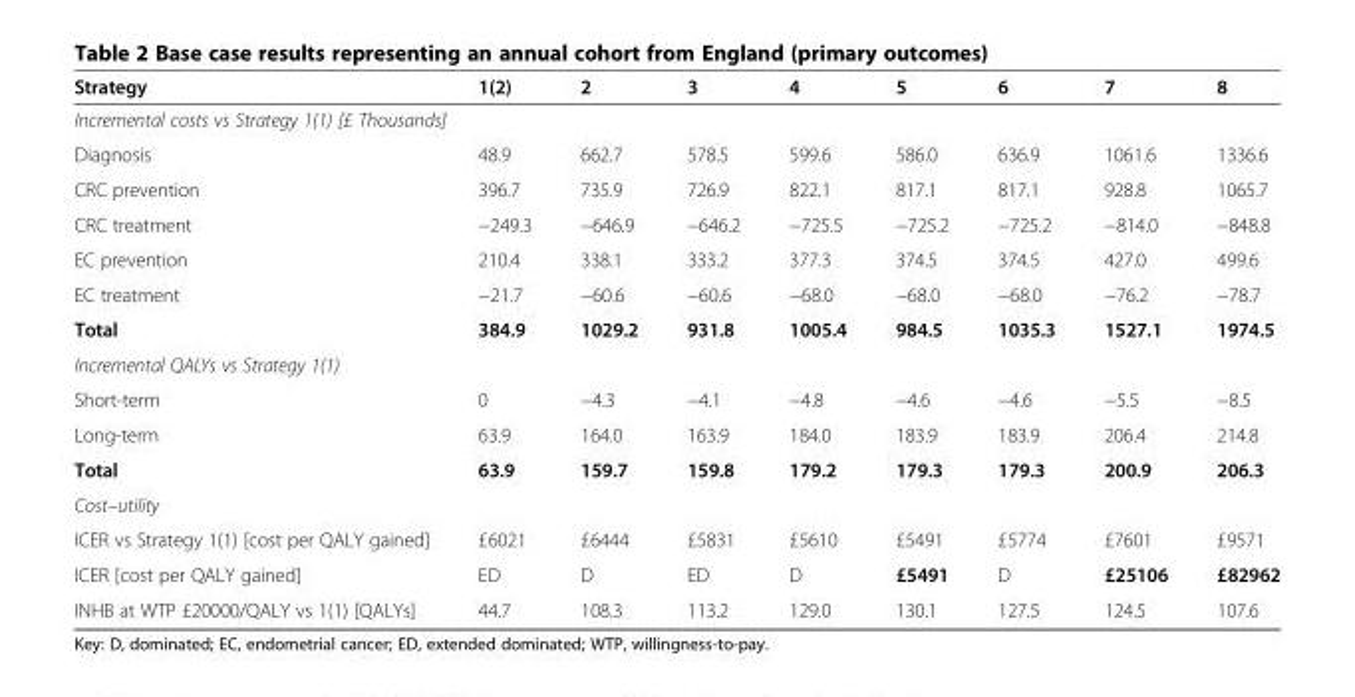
<table><thead><tr><td>Strategy</td><td>1(2)</td><td>2</td><td>3</td><td>4</td><td>5</td><td>6</td><td>7</td><td>8</td></tr></thead><tbody><tr><td colspan="9">Incremental costs vs Strategy 1(1) [£ Thousands]</td></tr><tr><td>Diagnosis</td><td>48.9</td><td>662.7</td><td>578.5</td><td>599.6</td><td>586.0</td><td>636.9</td><td>1061.6</td><td>1336.6</td></tr><tr><td>CRC prevention</td><td>396.7</td><td>735.9</td><td>726.9</td><td>822.1</td><td>817.1</td><td>817.1</td><td>928.8</td><td>1065.7</td></tr><tr><td>CRC treatment</td><td>−249.3</td><td>−646.9</td><td>−646.2</td><td>−725.5</td><td>−725.2</td><td>−725.2</td><td>−814.0</td><td>−848.8</td></tr><tr><td>EC prevention</td><td>210.4</td><td>338.1</td><td>333.2</td><td>377.3</td><td>374.5</td><td>374.5</td><td>427.0</td><td>499.6</td></tr><tr><td>EC treatment</td><td>−21.7</td><td>−60.6</td><td>−60.6</td><td>−68.0</td><td>−68.0</td><td>−68.0</td><td>−76.2</td><td>−78.7</td></tr><tr><td>Total</td><td>384.9</td><td>1029.2</td><td>931.8</td><td>1005.4</td><td>984.5</td><td>1035.3</td><td>1527.1</td><td>1974.5</td></tr><tr><td colspan="9">Incremental QALYs vs Strategy 1(1)</td></tr><tr><td>Short-term</td><td>0</td><td>−4.3</td><td>−4.1</td><td>−4.8</td><td>−4.6</td><td>−4.6</td><td>−5.5</td><td>−8.5</td></tr><tr><td>Long-term</td><td>63.9</td><td>164.0</td><td>163.9</td><td>184.0</td><td>183.9</td><td>183.9</td><td>206.4</td><td>214.8</td></tr><tr><td>Total</td><td>63.9</td><td>159.7</td><td>159.8</td><td>179.2</td><td>179.3</td><td>179.3</td><td>200.9</td><td>206.3</td></tr><tr><td colspan="9">Cost–utility</td></tr><tr><td>ICER vs Strategy 1(1) [cost per QALY gained]</td><td>£6021</td><td>£6444</td><td>£5831</td><td>£5610</td><td>£5491</td><td>£5774</td><td>£7601</td><td>£9571</td></tr><tr><td>ICER [cost per QALY gained]</td><td>ED</td><td>D</td><td>ED</td><td>D</td><td>£5491</td><td>D</td><td>£25106</td><td>£82962</td></tr><tr><td>INHB at WTP £20000/QALY vs 1(1) [QALYs]</td><td>44.7</td><td>108.3</td><td>113.2</td><td>129.0</td><td>130.1</td><td>127.5</td><td>124.5</td><td>107.6</td></tr></tbody></table>